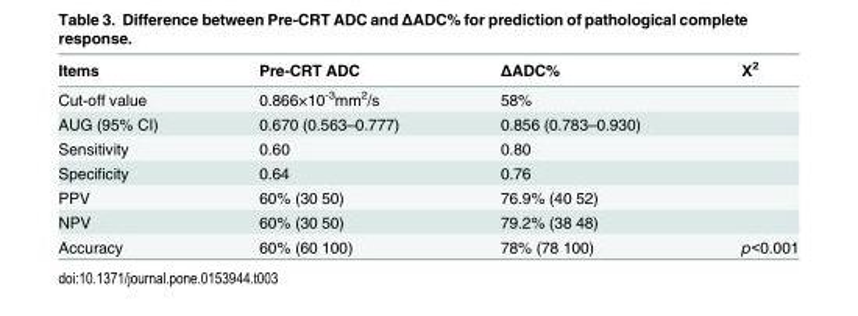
<table><thead><tr><td>Items</td><td>Pre-CRT ADC</td><td>ΔADC%</td><td>Χ<sup>2</sup></td></tr></thead><tbody><tr><td>Cut-off value</td><td>0.866×10<sup>-3</sup>mm<sup>2</sup>/s</td><td>58%</td><td></td></tr><tr><td>AUG (95% CI)</td><td>0.670 (0.563–0.777)</td><td>0.856 (0.783–0.930)</td><td></td></tr><tr><td>Sensitivity</td><td>0.60</td><td>0.80</td><td></td></tr><tr><td>Specificity</td><td>0.64</td><td>0.76</td><td></td></tr><tr><td>PPV</td><td>60% (30∕50)</td><td>76.9% (40∕52)</td><td></td></tr><tr><td>NPV</td><td>60% (30∕50)</td><td>79.2% (38∕48)</td><td></td></tr><tr><td>Accuracy</td><td>60% (60∕100)</td><td>78% (78∕100)</td><td>p&lt;0.001</td></tr></tbody></table>